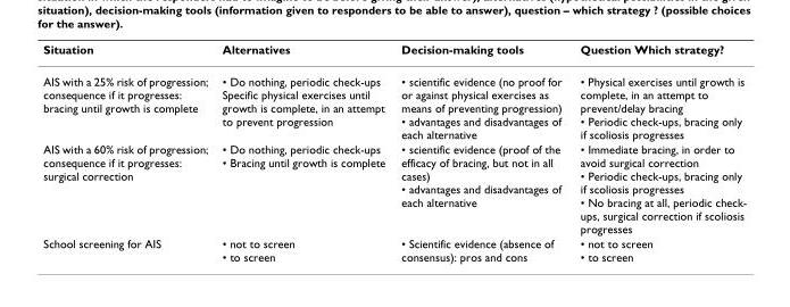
<table><thead><tr><td>Situation</td><td>Alternatives</td><td>Decision-making tools</td><td>Question Which strategy?</td></tr></thead><tbody><tr><td>AIS with a 25% risk of progression; consequence if it progresses: bracing until growth is complete</td><td>• Do nothing, periodic check-ups Specific physical exercises until growth is complete, in an attempt to prevent progression</td><td>• scientific evidence (no proof for or against physical exercises as means of preventing progression) • advantages and disadvantages of each alternative</td><td>• Physical exercises until growth is complete, in an attempt to prevent/delay bracing • Periodic check-ups, bracing only if scoliosis progresses</td></tr><tr><td>AIS with a 60% risk of progression; consequence if it progresses: surgical correction</td><td>• Do nothing, periodic check-ups • Bracing until growth is complete</td><td>• scientific evidence (proof of the efficacy of bracing, but not in all cases) • advantages and disadvantages of each alternative</td><td>• Immediate bracing, in order to avoid surgical correction • Periodic check-ups, bracing only if scoliosis progresses • No bracing at all, periodic check- ups, surgical correction if scoliosis progresses</td></tr><tr><td>School screening for AIS</td><td>• not to screen • to screen</td><td>• Scientific evidence (absence of consensus): pros and cons</td><td>• not to screen • to screen</td></tr></tbody></table>